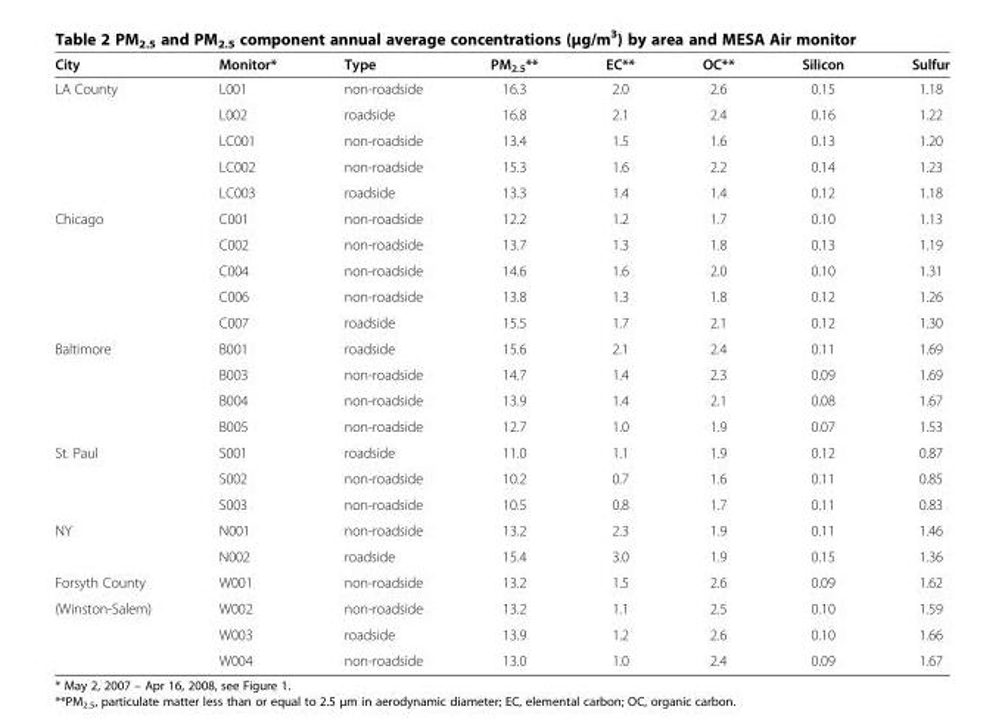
<table><thead><tr><td>City</td><td>Monitor*</td><td>Type</td><td>PM<sub>2.5</sub>**</td><td>EC**</td><td>OC**</td><td>Silicon</td><td>Sulfur</td></tr></thead><tbody><tr><td rowspan="5">LA County</td><td>L001</td><td>non-roadside</td><td>16.3</td><td>2.0</td><td>2.6</td><td>0.15</td><td>1.18</td></tr><tr><td>L002</td><td>roadside</td><td>16.8</td><td>2.1</td><td>2.4</td><td>0.16</td><td>1.22</td></tr><tr><td>LC001</td><td>non-roadside</td><td>13.4</td><td>1.5</td><td>1.6</td><td>0.13</td><td>1.20</td></tr><tr><td>LC002</td><td>non-roadside</td><td>15.3</td><td>1.6</td><td>2.2</td><td>0.14</td><td>1.23</td></tr><tr><td>LC003</td><td>roadside</td><td>13.3</td><td>1.4</td><td>1.4</td><td>0.12</td><td>1.18</td></tr><tr><td rowspan="5">Chicago</td><td>C001</td><td>non-roadside</td><td>12.2</td><td>1.2</td><td>1.7</td><td>0.10</td><td>1.13</td></tr><tr><td>C002</td><td>non-roadside</td><td>13.7</td><td>1.3</td><td>1.8</td><td>0.13</td><td>1.19</td></tr><tr><td>C004</td><td>non-roadside</td><td>14.6</td><td>1.6</td><td>2.0</td><td>0.10</td><td>1.31</td></tr><tr><td>C006</td><td>non-roadside</td><td>13.8</td><td>1.3</td><td>1.8</td><td>0.12</td><td>1.26</td></tr><tr><td>C007</td><td>roadside</td><td>15.5</td><td>1.7</td><td>2.1</td><td>0.12</td><td>1.30</td></tr><tr><td rowspan="4">Baltimore</td><td>B001</td><td>roadside</td><td>15.6</td><td>2.1</td><td>2.4</td><td>0.11</td><td>1.69</td></tr><tr><td>B003</td><td>non-roadside</td><td>14.7</td><td>1.4</td><td>2.3</td><td>0.09</td><td>1.69</td></tr><tr><td>B004</td><td>non-roadside</td><td>13.9</td><td>1.4</td><td>2.1</td><td>0.08</td><td>1.67</td></tr><tr><td>B005</td><td>non-roadside</td><td>12.7</td><td>1.0</td><td>1.9</td><td>0.07</td><td>1.53</td></tr><tr><td rowspan="3">St. Paul</td><td>S001</td><td>roadside</td><td>11.0</td><td>1.1</td><td>1.9</td><td>0.12</td><td>0.87</td></tr><tr><td>S002</td><td>non-roadside</td><td>10.2</td><td>0.7</td><td>1.6</td><td>0.11</td><td>0.85</td></tr><tr><td>S003</td><td>non-roadside</td><td>10.5</td><td>0.8</td><td>1.7</td><td>0.11</td><td>0.83</td></tr><tr><td rowspan="2">NY</td><td>N001</td><td>non-roadside</td><td>13.2</td><td>2.3</td><td>1.9</td><td>0.11</td><td>1.46</td></tr><tr><td>N002</td><td>roadside</td><td>15.4</td><td>3.0</td><td>1.9</td><td>0.15</td><td>1.36</td></tr><tr><td>Forsyth County</td><td>W001</td><td>non-roadside</td><td>13.2</td><td>1.5</td><td>2.6</td><td>0.09</td><td>1.62</td></tr><tr><td rowspan="3">(Winston-Salem)</td><td>W002</td><td>non-roadside</td><td>13.2</td><td>1.1</td><td>2.5</td><td>0.10</td><td>1.59</td></tr><tr><td>W003</td><td>roadside</td><td>13.9</td><td>1.2</td><td>2.6</td><td>0.10</td><td>1.66</td></tr><tr><td>W004</td><td>non-roadside</td><td>13.0</td><td>1.0</td><td>2.4</td><td>0.09</td><td>1.67</td></tr></tbody></table>